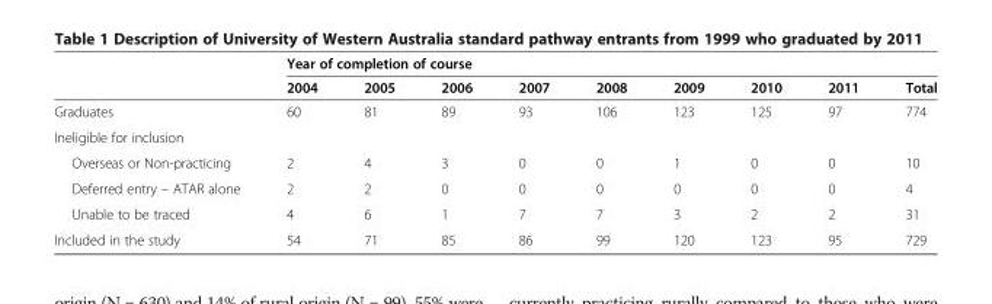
<table><thead><tr><td rowspan="2"></td><td colspan="9">Year of completion of course</td></tr><tr><td>2004</td><td>2005</td><td>2006</td><td>2007</td><td>2008</td><td>2009</td><td>2010</td><td>2011</td><td>Total</td></tr></thead><tbody><tr><td>Graduates</td><td>60</td><td>81</td><td>89</td><td>93</td><td>106</td><td>123</td><td>125</td><td>97</td><td>774</td></tr><tr><td colspan="10">Ineligible for inclusion</td></tr><tr><td>Overseas or Non-practicing</td><td>2</td><td>4</td><td>3</td><td>0</td><td>0</td><td>1</td><td>0</td><td>0</td><td>10</td></tr><tr><td>Deferred entry – ATAR alone</td><td>2</td><td>2</td><td>0</td><td>0</td><td>0</td><td>0</td><td>0</td><td>0</td><td>4</td></tr><tr><td>Unable to be traced</td><td>4</td><td>6</td><td>1</td><td>7</td><td>7</td><td>3</td><td>2</td><td>2</td><td>31</td></tr><tr><td>Included in the study</td><td>54</td><td>71</td><td>85</td><td>86</td><td>99</td><td>120</td><td>123</td><td>95</td><td>729</td></tr></tbody></table>